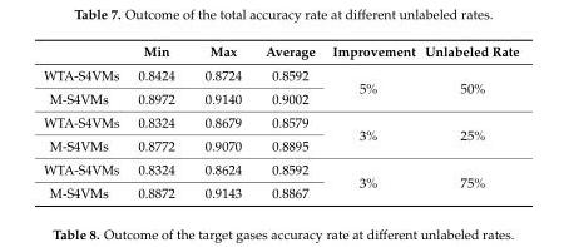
<table><thead><tr><td></td><td>Min</td><td>Max</td><td>Average</td><td>Improvement</td><td>Unlabeled Rate</td></tr></thead><tbody><tr><td>WTA-S4VMs</td><td>0.8424</td><td>0.8724</td><td>0.8592</td><td rowspan="2">5%</td><td rowspan="2">50%</td></tr><tr><td>M-S4VMs</td><td>0.8972</td><td>0.9140</td><td>0.9002</td></tr><tr><td>WTA-S4VMs</td><td>0.8324</td><td>0.8679</td><td>0.8579</td><td rowspan="2">3%</td><td rowspan="2">25%</td></tr><tr><td>M-S4VMs</td><td>0.8772</td><td>0.9070</td><td>0.8895</td></tr><tr><td>WTA-S4VMs</td><td>0.8324</td><td>0.8624</td><td>0.8592</td><td rowspan="2">3%</td><td rowspan="2">75%</td></tr><tr><td>M-S4VMs</td><td>0.8872</td><td>0.9143</td><td>0.8867</td></tr></tbody></table>